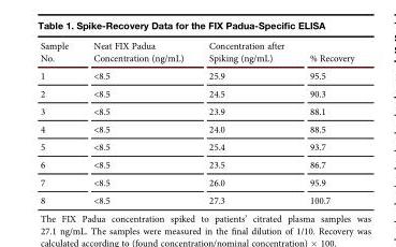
<table><thead><tr><td>Sample No.</td><td>Neat FIX Padua Concentration (ng/mL)</td><td>Concentration after Spiking (ng/mL)</td><td>% Recovery</td></tr></thead><tbody><tr><td>1</td><td>&lt;8.5</td><td>25.9</td><td>95.5</td></tr><tr><td>2</td><td>&lt;8.5</td><td>24.5</td><td>90.3</td></tr><tr><td>3</td><td>&lt;8.5</td><td>23.9</td><td>88.1</td></tr><tr><td>4</td><td>&lt;8.5</td><td>24.0</td><td>88.5</td></tr><tr><td>5</td><td>&lt;8.5</td><td>25.4</td><td>93.7</td></tr><tr><td>6</td><td>&lt;8.5</td><td>23.5</td><td>86.7</td></tr><tr><td>7</td><td>&lt;8.5</td><td>26.0</td><td>95.9</td></tr><tr><td>8</td><td>&lt;8.5</td><td>27.3</td><td>100.7</td></tr></tbody></table>